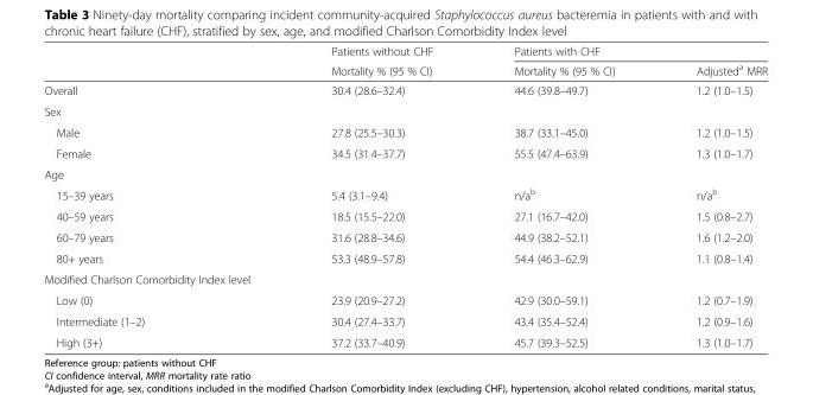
<table><thead><tr><td rowspan="2"></td><td rowspan="2">Patients without CHF Mortality % (95 % CI)</td><td colspan="2">Patients with CHF</td></tr><tr><td>Mortality % (95 % CI)</td><td>Adjusted<sup>a</sup> MRR</td></tr></thead><tbody><tr><td>Overall</td><td>30.4 (28.6–32.4)</td><td>44.6 (39.8–49.7)</td><td>1.2 (1.0–1.5)</td></tr><tr><td colspan="4">Sex</td></tr><tr><td>Male</td><td>27.8 (25.5–30.3)</td><td>38.7 (33.1–45.0)</td><td>1.2 (1.0–1.5)</td></tr><tr><td>Female</td><td>34.5 (31.4–37.7)</td><td>55.5 (47.4–63.9)</td><td>1.3 (1.0–1.7)</td></tr><tr><td colspan="4">Age</td></tr><tr><td>15–39 years</td><td>5.4 (3.1–9.4)</td><td>n/a<sup>b</sup></td><td>n/a<sup>b</sup></td></tr><tr><td>40–59 years</td><td>18.5 (15.5–22.0)</td><td>27.1 (16.7–42.0)</td><td>1.5 (0.8–2.7)</td></tr><tr><td>60–79 years</td><td>31.6 (28.8–34.6)</td><td>44.9 (38.2–52.1)</td><td>1.6 (1.2–2.0)</td></tr><tr><td>80+ years</td><td>53.3 (48.9–57.8)</td><td>54.4 (46.3–62.9)</td><td>1.1 (0.8–1.4)</td></tr><tr><td colspan="4">Modified Charlson Comorbidity Index level</td></tr><tr><td>Low (0)</td><td>23.9 (20.9–27.2)</td><td>42.9 (30.0–59.1)</td><td>1.2 (0.7–1.9)</td></tr><tr><td>Intermediate (1–2)</td><td>30.4 (27.4–33.7)</td><td>43.4 (35.4–52.4)</td><td>1.2 (0.9–1.6)</td></tr><tr><td>High (3+)</td><td>37.2 (33.7–40.9)</td><td>45.7 (39.3–52.5)</td><td>1.3 (1.0–1.7)</td></tr></tbody></table>